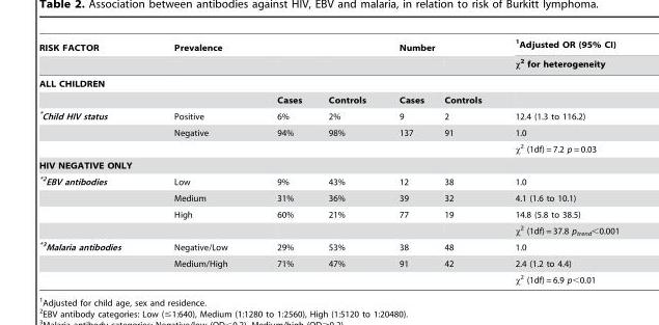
<table><thead><tr><td rowspan="2">RISK FACTOR</td><td colspan="3">Prevalence</td><td colspan="2">Number</td><td rowspan="2">1Adjusted OR (95% CI) χ<sup>2</sup> for heterogeneity</td></tr><tr><td></td><td></td><td></td><td></td><td></td></tr><tr><td colspan="7">ALL CHILDREN</td></tr><tr><td></td><td></td><td>Cases</td><td>Controls</td><td>Cases</td><td>Controls</td><td></td></tr></thead><tbody><tr><td rowspan="3">*Child HIV status</td><td>Positive</td><td>6%</td><td>2%</td><td>9</td><td>2</td><td>12.4 (1.3 to 116.2)</td></tr><tr><td>Negative</td><td>94%</td><td>98%</td><td>137</td><td>91</td><td>1.0</td></tr><tr><td></td><td></td><td></td><td></td><td></td><td>χ<sup>2</sup> (1df) = 7.2 p = 0.03</td></tr><tr><td colspan="7">HIV NEGATIVE ONLY</td></tr><tr><td rowspan="4">*2EBV antibodies</td><td>Low</td><td>9%</td><td>43%</td><td>12</td><td>38</td><td>1.0</td></tr><tr><td>Medium</td><td>31%</td><td>36%</td><td>39</td><td>32</td><td>4.1 (1.6 to 10.1)</td></tr><tr><td>High</td><td>60%</td><td>21%</td><td>77</td><td>19</td><td>14.8 (5.8 to 38.5)</td></tr><tr><td></td><td></td><td></td><td></td><td></td><td>χ<sup>2</sup> (1df) = 37.8 p<sub>trend</sub>&lt;0.001</td></tr><tr><td rowspan="3">*3Malaria antibodies</td><td>Negative/Low</td><td>29%</td><td>53%</td><td>38</td><td>48</td><td>1.0</td></tr><tr><td>Medium/High</td><td>71%</td><td>47%</td><td>91</td><td>42</td><td>2.4 (1.2 to 4.4)</td></tr><tr><td></td><td></td><td></td><td></td><td></td><td>χ<sup>2</sup> (1df) = 6.9 p&lt;0.01</td></tr></tbody></table>